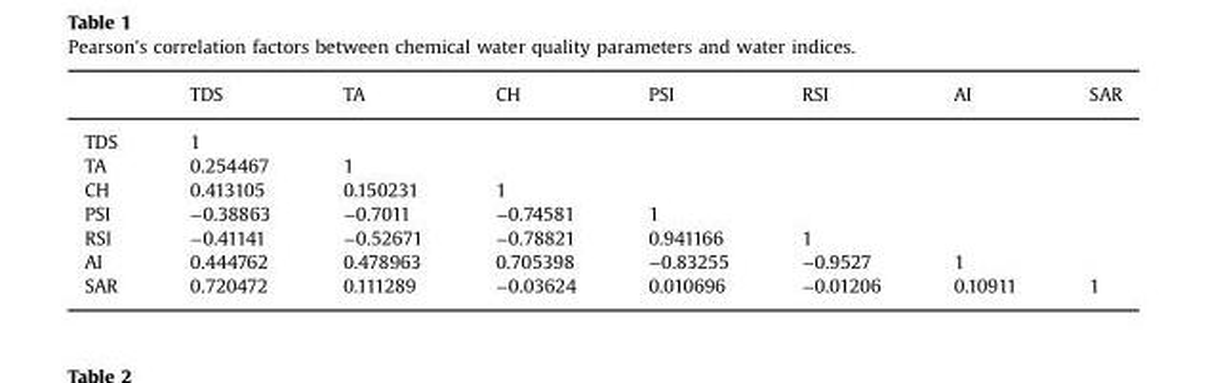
<table><thead><tr><td></td><td>TDS</td><td>TA</td><td>CH</td><td>PSI</td><td>RSI</td><td>AI</td><td>SAR</td></tr></thead><tbody><tr><td>TDS</td><td>1</td><td></td><td></td><td></td><td></td><td></td><td></td></tr><tr><td>TA</td><td>0.254467</td><td>1</td><td></td><td></td><td></td><td></td><td></td></tr><tr><td>CH</td><td>0.413105</td><td>0.150231</td><td>1</td><td></td><td></td><td></td><td></td></tr><tr><td>PSI</td><td>−0.38863</td><td>−0.7011</td><td>−0.74581</td><td>1</td><td></td><td></td><td></td></tr><tr><td>RSI</td><td>−0.41141</td><td>−0.52671</td><td>−0.78821</td><td>0.941166</td><td>1</td><td></td><td></td></tr><tr><td>AI</td><td>0.444762</td><td>0.478963</td><td>0.705398</td><td>−0.83255</td><td>−0.9527</td><td>1</td><td></td></tr><tr><td>SAR</td><td>0.720472</td><td>0.111289</td><td>−0.03624</td><td>0.010696</td><td>−0.01206</td><td>0.10911</td><td>1</td></tr></tbody></table>